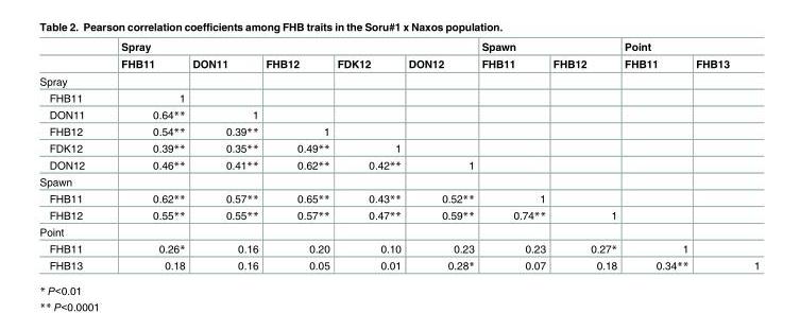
<table><thead><tr><td rowspan="2"></td><td colspan="5">Spray</td><td colspan="2">Spawn</td><td colspan="2">Point</td></tr><tr><td>FHB11</td><td>DON11</td><td>FHB12</td><td>FDK12</td><td>DON12</td><td>FHB11</td><td>FHB12</td><td>FHB11</td><td>FHB13</td></tr></thead><tbody><tr><td colspan="10">Spray</td></tr><tr><td>FHB11</td><td>1</td><td></td><td></td><td></td><td></td><td></td><td></td><td></td><td></td></tr><tr><td>DON11</td><td>0.64**</td><td>1</td><td></td><td></td><td></td><td></td><td></td><td></td><td></td></tr><tr><td>FHB12</td><td>0.54**</td><td>0.39**</td><td>1</td><td></td><td></td><td></td><td></td><td></td><td></td></tr><tr><td>FDK12</td><td>0.39**</td><td>0.35**</td><td>0.49**</td><td>1</td><td></td><td></td><td></td><td></td><td></td></tr><tr><td>DON12</td><td>0.46**</td><td>0.41**</td><td>0.62**</td><td>0.42**</td><td>1</td><td></td><td></td><td></td><td></td></tr><tr><td colspan="10">Spawn</td></tr><tr><td>FHB11</td><td>0.62**</td><td>0.57**</td><td>0.65**</td><td>0.43**</td><td>0.52**</td><td>1</td><td></td><td></td><td></td></tr><tr><td>FHB12</td><td>0.55**</td><td>0.55**</td><td>0.57**</td><td>0.47**</td><td>0.59**</td><td>0.74**</td><td>1</td><td></td><td></td></tr><tr><td colspan="10">Point</td></tr><tr><td>FHB11</td><td>0.26*</td><td>0.16</td><td>0.20</td><td>0.10</td><td>0.23</td><td>0.23</td><td>0.27*</td><td>1</td><td></td></tr><tr><td>FHB13</td><td>0.18</td><td>0.16</td><td>0.05</td><td>0.01</td><td>0.28*</td><td>0.07</td><td>0.18</td><td>0.34**</td><td>1</td></tr></tbody></table>